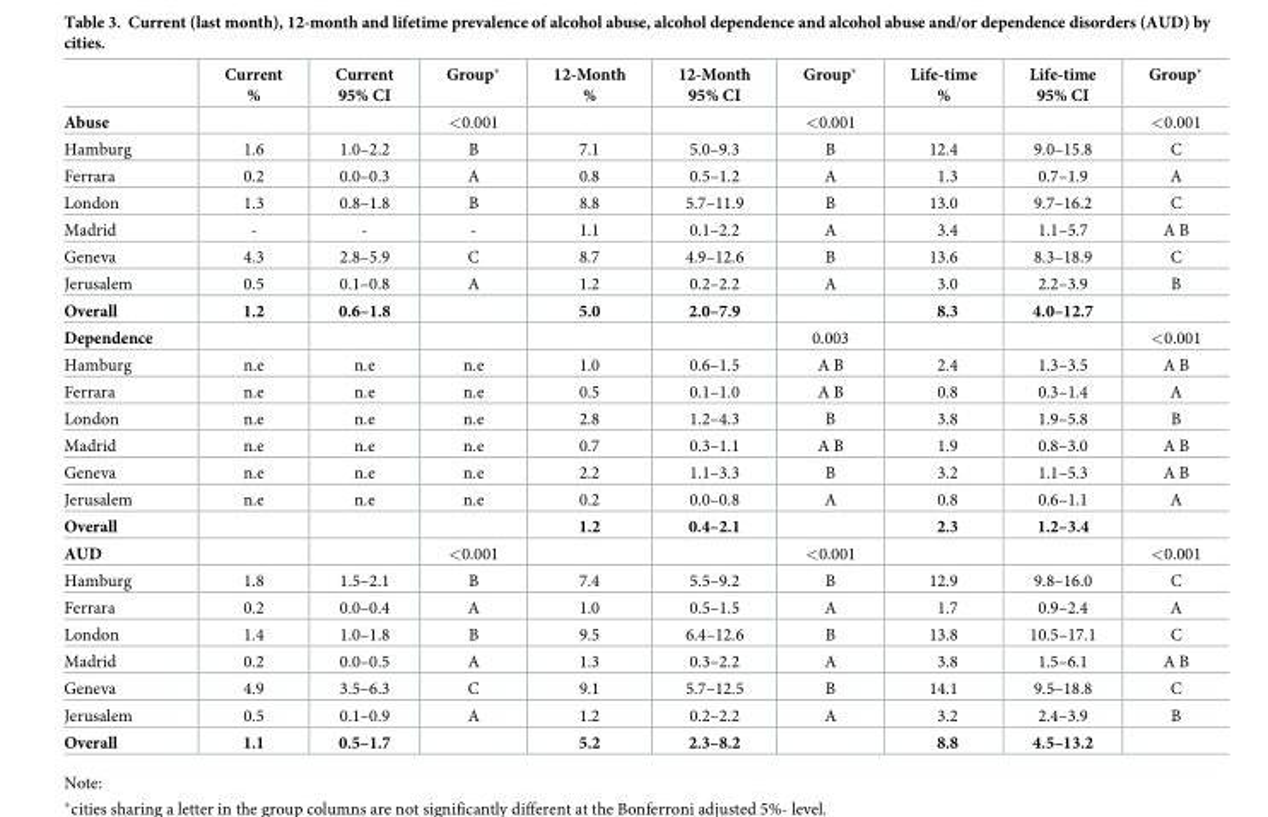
<table><thead><tr><td></td><td>Current %</td><td>Current 95% CI</td><td>Group*</td><td>12-Month %</td><td>12-Month 95% CI</td><td>Group*</td><td>Life-time %</td><td>Life-time 95% CI</td><td>Group*</td></tr></thead><tbody><tr><td>Abuse</td><td></td><td></td><td>&lt;0.001</td><td></td><td></td><td>&lt;0.001</td><td></td><td></td><td>&lt;0.001</td></tr><tr><td>Hamburg</td><td>1.6</td><td>1.0–2.2</td><td>B</td><td>7.1</td><td>5.0–9.3</td><td>B</td><td>12.4</td><td>9.0–15.8</td><td>C</td></tr><tr><td>Ferrara</td><td>0.2</td><td>0.0–0.3</td><td>A</td><td>0.8</td><td>0.5–1.2</td><td>A</td><td>1.3</td><td>0.7–1.9</td><td>A</td></tr><tr><td>London</td><td>1.3</td><td>0.8–1.8</td><td>B</td><td>8.8</td><td>5.7–11.9</td><td>B</td><td>13.0</td><td>9.7–16.2</td><td>C</td></tr><tr><td>Madrid</td><td>-</td><td>-</td><td>-</td><td>1.1</td><td>0.1–2.2</td><td>A</td><td>3.4</td><td>1.1–5.7</td><td>A B</td></tr><tr><td>Geneva</td><td>4.3</td><td>2.8–5.9</td><td>C</td><td>8.7</td><td>4.9–12.6</td><td>B</td><td>13.6</td><td>8.3–18.9</td><td>C</td></tr><tr><td>Jerusalem</td><td>0.5</td><td>0.1–0.8</td><td>A</td><td>1.2</td><td>0.2–2.2</td><td>A</td><td>3.0</td><td>2.2–3.9</td><td>B</td></tr><tr><td>Overall</td><td>1.2</td><td>0.6–1.8</td><td></td><td>5.0</td><td>2.0–7.9</td><td></td><td>8.3</td><td>4.0–12.7</td><td></td></tr><tr><td>Dependence</td><td></td><td></td><td></td><td></td><td></td><td>0.003</td><td></td><td></td><td>&lt;0.001</td></tr><tr><td>Hamburg</td><td>n.e</td><td>n.e</td><td>n.e</td><td>1.0</td><td>0.6–1.5</td><td>A B</td><td>2.4</td><td>1.3–3.5</td><td>A B</td></tr><tr><td>Ferrara</td><td>n.e</td><td>n.e</td><td>n.e</td><td>0.5</td><td>0.1–1.0</td><td>A B</td><td>0.8</td><td>0.3–1.4</td><td>A</td></tr><tr><td>London</td><td>n.e</td><td>n.e</td><td>n.e</td><td>2.8</td><td>1.2–4.3</td><td>B</td><td>3.8</td><td>1.9–5.8</td><td>B</td></tr><tr><td>Madrid</td><td>n.e</td><td>n.e</td><td>n.e</td><td>0.7</td><td>0.3–1.1</td><td>A B</td><td>1.9</td><td>0.8–3.0</td><td>A B</td></tr><tr><td>Geneva</td><td>n.e</td><td>n.e</td><td>n.e</td><td>2.2</td><td>1.1–3.3</td><td>B</td><td>3.2</td><td>1.1–5.3</td><td>A B</td></tr><tr><td>Jerusalem</td><td>n.e</td><td>n.e</td><td>n.e</td><td>0.2</td><td>0.0–0.8</td><td>A</td><td>0.8</td><td>0.6–1.1</td><td>A</td></tr><tr><td>Overall</td><td></td><td></td><td></td><td>1.2</td><td>0.4–2.1</td><td></td><td>2.3</td><td>1.2–3.4</td><td></td></tr><tr><td>AUD</td><td></td><td></td><td>&lt;0.001</td><td></td><td></td><td>&lt;0.001</td><td></td><td></td><td>&lt;0.001</td></tr><tr><td>Hamburg</td><td>1.8</td><td>1.5–2.1</td><td>B</td><td>7.4</td><td>5.5–9.2</td><td>B</td><td>12.9</td><td>9.8–16.0</td><td>C</td></tr><tr><td>Ferrara</td><td>0.2</td><td>0.0–0.4</td><td>A</td><td>1.0</td><td>0.5–1.5</td><td>A</td><td>1.7</td><td>0.9–2.4</td><td>A</td></tr><tr><td>London</td><td>1.4</td><td>1.0–1.8</td><td>B</td><td>9.5</td><td>6.4–12.6</td><td>B</td><td>13.8</td><td>10.5–17.1</td><td>C</td></tr><tr><td>Madrid</td><td>0.2</td><td>0.0–0.5</td><td>A</td><td>1.3</td><td>0.3–2.2</td><td>A</td><td>3.8</td><td>1.5–6.1</td><td>A B</td></tr><tr><td>Geneva</td><td>4.9</td><td>3.5–6.3</td><td>C</td><td>9.1</td><td>5.7–12.5</td><td>B</td><td>14.1</td><td>9.5–18.8</td><td>C</td></tr><tr><td>Jerusalem</td><td>0.5</td><td>0.1–0.9</td><td>A</td><td>1.2</td><td>0.2–2.2</td><td>A</td><td>3.2</td><td>2.4–3.9</td><td>B</td></tr><tr><td>Overall</td><td>1.1</td><td>0.5–1.7</td><td></td><td>5.2</td><td>2.3–8.2</td><td></td><td>8.8</td><td>4.5–13.2</td><td></td></tr></tbody></table>